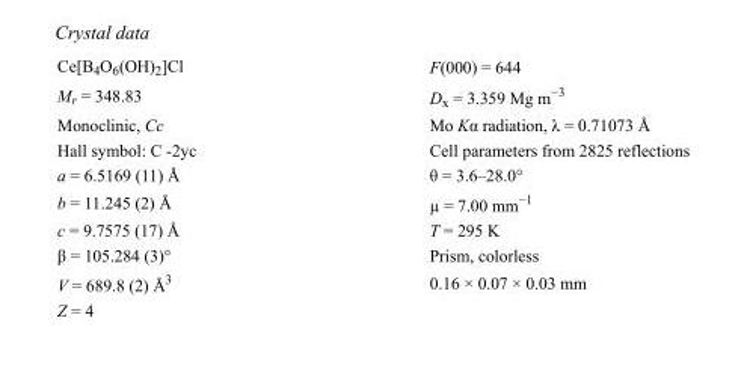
<table><tbody><tr><td>Ce[B<sub>4</sub>O<sub>6</sub>(OH)<sub>2</sub>]Cl</td><td>F(000) = 644</td></tr><tr><td>M<sub>r</sub> = 348.83</td><td>D<sub>x</sub> = 3.359 Mg m<sup>−3</sup></td></tr><tr><td>Monoclinic, Cc</td><td>Mo Kα radiation, λ = 0.71073 Å</td></tr><tr><td>Hall symbol: C -2yc</td><td>Cell parameters from 2825 reflections</td></tr><tr><td>a = 6.5169 (11) Å</td><td>θ = 3.6–28.0°</td></tr><tr><td>b = 11.245 (2) Å</td><td>µ = 7.00 mm<sup>−1</sup></td></tr><tr><td>c = 9.7575 (17) Å</td><td>T = 295 K</td></tr><tr><td>β = 105.284 (3)°</td><td>Prism, colorless</td></tr><tr><td>V = 689.8 (2) Å<sup>3</sup></td><td>0.16 × 0.07 × 0.03 mm</td></tr><tr><td>Z = 4</td><td></td></tr></tbody></table>